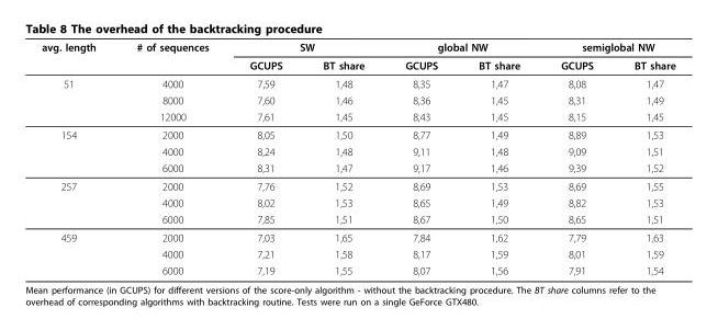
<table><thead><tr><td rowspan="2">avg. length</td><td rowspan="2"># of sequences</td><td colspan="2">SW</td><td colspan="2">global NW</td><td colspan="2">semiglobal NW</td></tr><tr><td>GCUPS</td><td>BT share</td><td>GCUPS</td><td>BT share</td><td>GCUPS</td><td>BT share</td></tr></thead><tbody><tr><td rowspan="3">51</td><td>4000</td><td>7,59</td><td>1,48</td><td>8,35</td><td>1,47</td><td>8,08</td><td>1,47</td></tr><tr><td>8000</td><td>7,60</td><td>1,46</td><td>8,36</td><td>1,45</td><td>8,31</td><td>1,49</td></tr><tr><td>12000</td><td>7,61</td><td>1,45</td><td>8,43</td><td>1,45</td><td>8,15</td><td>1,45</td></tr><tr><td rowspan="3">154</td><td>2000</td><td>8,05</td><td>1,50</td><td>8,77</td><td>1,49</td><td>8,89</td><td>1,53</td></tr><tr><td>4000</td><td>8,24</td><td>1,48</td><td>9,11</td><td>1,48</td><td>9,09</td><td>1,51</td></tr><tr><td>6000</td><td>8,31</td><td>1,47</td><td>9,17</td><td>1,46</td><td>9,39</td><td>1,52</td></tr><tr><td rowspan="3">257</td><td>2000</td><td>7,76</td><td>1,52</td><td>8,69</td><td>1,53</td><td>8,69</td><td>1,55</td></tr><tr><td>4000</td><td>8,02</td><td>1,53</td><td>8,65</td><td>1,49</td><td>8,82</td><td>1,53</td></tr><tr><td>6000</td><td>7,85</td><td>1,51</td><td>8,67</td><td>1,50</td><td>8,65</td><td>1,51</td></tr><tr><td rowspan="3">459</td><td>2000</td><td>7,03</td><td>1,65</td><td>7,84</td><td>1,62</td><td>7,79</td><td>1,63</td></tr><tr><td>4000</td><td>7,21</td><td>1,58</td><td>8,17</td><td>1,59</td><td>8,01</td><td>1,59</td></tr><tr><td>6000</td><td>7,19</td><td>1,55</td><td>8,07</td><td>1,56</td><td>7,91</td><td>1,54</td></tr></tbody></table>